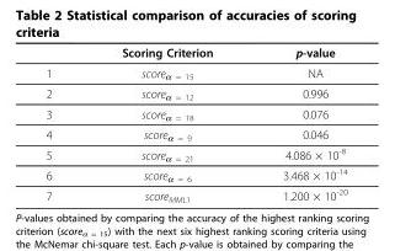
<table><thead><tr><td></td><td>Scoring Criterion</td><td>p-value</td></tr></thead><tbody><tr><td>1</td><td>score<sub>α = 15</sub></td><td>NA</td></tr><tr><td>2</td><td>score<sub>α = 12</sub></td><td>0.996</td></tr><tr><td>3</td><td>score<sub>α = 18</sub></td><td>0.076</td></tr><tr><td>4</td><td>score<sub>α = 9</sub></td><td>0.046</td></tr><tr><td>5</td><td>score<sub>α = 21</sub></td><td>4.086 × 10<sup>-8</sup></td></tr><tr><td>6</td><td>score<sub>α = 6</sub></td><td>3.468 × 10<sup>-14</sup></td></tr><tr><td>7</td><td>score<sub>MML1</sub></td><td>1.200 × 10<sup>-20</sup></td></tr></tbody></table>